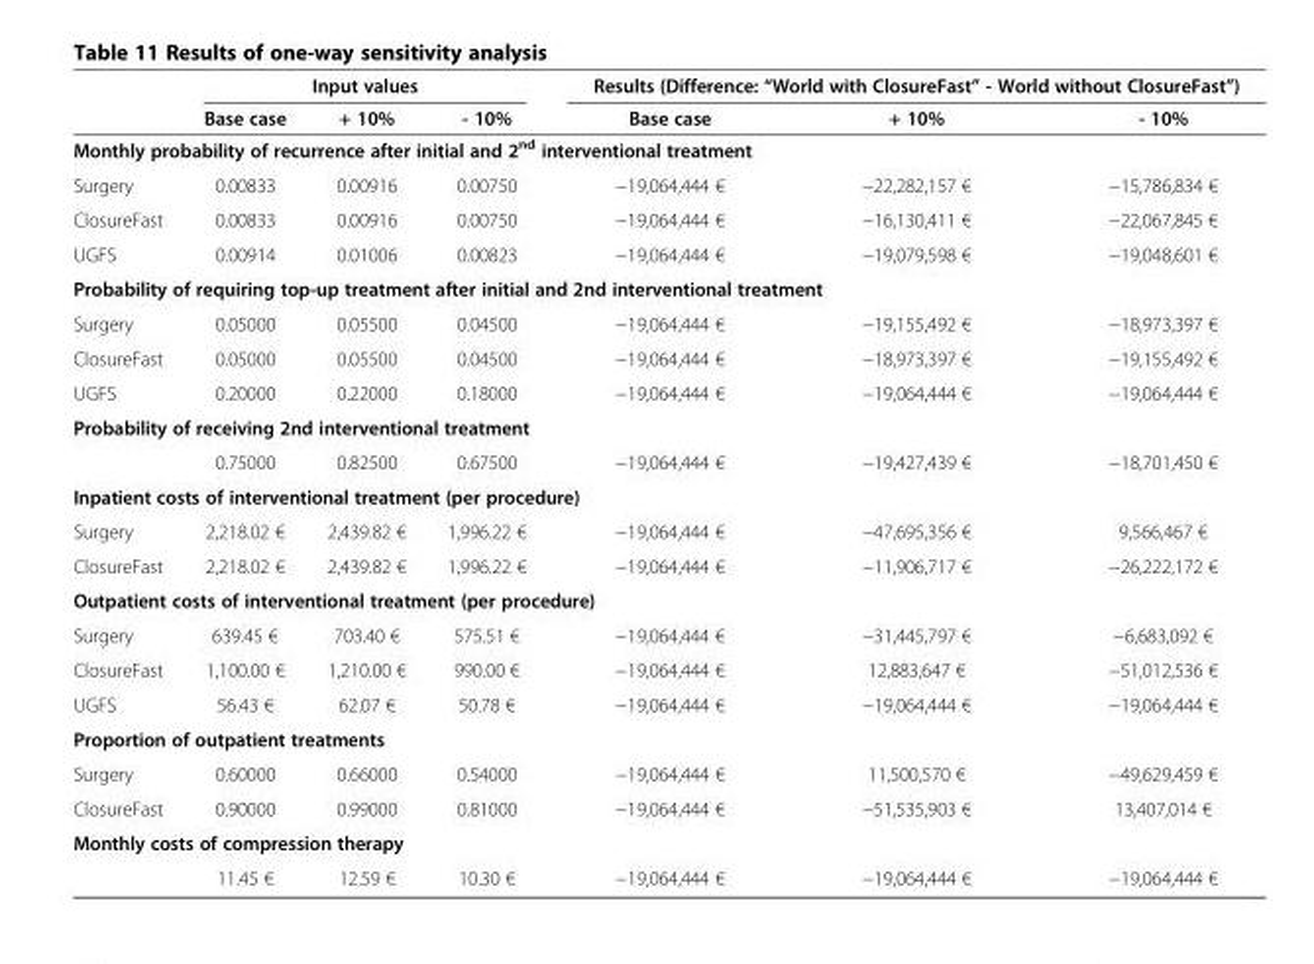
<table><thead><tr><td rowspan="2"></td><td colspan="3">Input values</td><td colspan="3">Results (Difference: “World with ClosureFast” - World without ClosureFast”)</td></tr><tr><td>Base case</td><td>+ 10%</td><td>- 10%</td><td>Base case</td><td>+ 10%</td><td>- 10%</td></tr></thead><tbody><tr><td colspan="7">Monthly probability of recurrence after initial and 2<sup>nd</sup> interventional treatment</td></tr><tr><td>Surgery</td><td>0.00833</td><td>0.00916</td><td>0.00750</td><td>−19,064,444 €</td><td>−22,282,157 €</td><td>−15,786,834 €</td></tr><tr><td>ClosureFast</td><td>0.00833</td><td>0.00916</td><td>0.00750</td><td>−19,064,444 €</td><td>−16,130,411 €</td><td>−22,067,845 €</td></tr><tr><td>UGFS</td><td>0.00914</td><td>0.01006</td><td>0.00823</td><td>−19,064,444 €</td><td>−19,079,598 €</td><td>−19,048,601 €</td></tr><tr><td colspan="7">Probability of requiring top-up treatment after initial and 2nd interventional treatment</td></tr><tr><td>Surgery</td><td>0.05000</td><td>0.05500</td><td>0.04500</td><td>−19,064,444 €</td><td>−19,155,492 €</td><td>−18,973,397 €</td></tr><tr><td>ClosureFast</td><td>0.05000</td><td>0.05500</td><td>0.04500</td><td>−19,064,444 €</td><td>−18,973,397 €</td><td>−19,155,492 €</td></tr><tr><td>UGFS</td><td>0.20000</td><td>0.22000</td><td>0.18000</td><td>−19,064,444 €</td><td>−19,064,444 €</td><td>−19,064,444 €</td></tr><tr><td colspan="7">Probability of receiving 2nd interventional treatment</td></tr><tr><td></td><td>0.75000</td><td>0.82500</td><td>0.67500</td><td>−19,064,444 €</td><td>−19,427,439 €</td><td>−18,701,450 €</td></tr><tr><td colspan="7">Inpatient costs of interventional treatment (per procedure)</td></tr><tr><td>Surgery</td><td>2,218.02 €</td><td>2,439.82 €</td><td>1,996.22 €</td><td>−19,064,444 €</td><td>−47,695,356 €</td><td>9,566,467 €</td></tr><tr><td>ClosureFast</td><td>2,218.02 €</td><td>2,439.82 €</td><td>1,996.22 €</td><td>−19,064,444 €</td><td>−11,906,717 €</td><td>−26,222,172 €</td></tr><tr><td colspan="7">Outpatient costs of interventional treatment (per procedure)</td></tr><tr><td>Surgery</td><td>639.45 €</td><td>703.40 €</td><td>575.51 €</td><td>−19,064,444 €</td><td>−31,445,797 €</td><td>−6,683,092 €</td></tr><tr><td>ClosureFast</td><td>1,100.00 €</td><td>1,210.00 €</td><td>990.00 €</td><td>−19,064,444 €</td><td>12,883,647 €</td><td>−51,012,536 €</td></tr><tr><td>UGFS</td><td>56.43 €</td><td>62.07 €</td><td>50.78 €</td><td>−19,064,444 €</td><td>−19,064,444 €</td><td>−19,064,444 €</td></tr><tr><td colspan="7">Proportion of outpatient treatments</td></tr><tr><td>Surgery</td><td>0.60000</td><td>0.66000</td><td>0.54000</td><td>−19,064,444 €</td><td>11,500,570 €</td><td>−49,629,459 €</td></tr><tr><td>ClosureFast</td><td>0.90000</td><td>0.99000</td><td>0.81000</td><td>−19,064,444 €</td><td>−51,535,903 €</td><td>13,407,014 €</td></tr><tr><td colspan="7">Monthly costs of compression therapy</td></tr><tr><td></td><td>11.45 €</td><td>12.59 €</td><td>10.30 €</td><td>−19,064,444 €</td><td>−19,064,444 €</td><td>−19,064,444 €</td></tr></tbody></table>